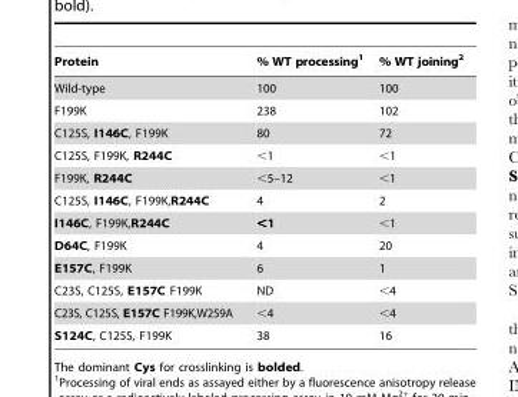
<table><thead><tr><td>Protein</td><td>% WT processing<sup>1</sup></td><td>% WT joining<sup>2</sup></td></tr></thead><tbody><tr><td>Wild-type</td><td>100</td><td>100</td></tr><tr><td>F199K</td><td>238</td><td>102</td></tr><tr><td>C125S, I146C, F199K</td><td>80</td><td>72</td></tr><tr><td>C125S, F199K, R244C</td><td>&lt;1</td><td>&lt;1</td></tr><tr><td>F199K, R244C</td><td>&lt;5–12</td><td>&lt;1</td></tr><tr><td>C125S, I146C, F199K,R244C</td><td>4</td><td>2</td></tr><tr><td>I146C, F199K,R244C</td><td>&lt;1</td><td>&lt;1</td></tr><tr><td>D64C, F199K</td><td>4</td><td>20</td></tr><tr><td>E157C, F199K</td><td>6</td><td>1</td></tr><tr><td>C23S, C125S, E157C F199K</td><td>ND</td><td>&lt;4</td></tr><tr><td>C23S, C125S, E157C F199K,W259A</td><td>&lt;4</td><td>&lt;4</td></tr><tr><td>S124C, C125S, F199K</td><td>38</td><td>16</td></tr></tbody></table>